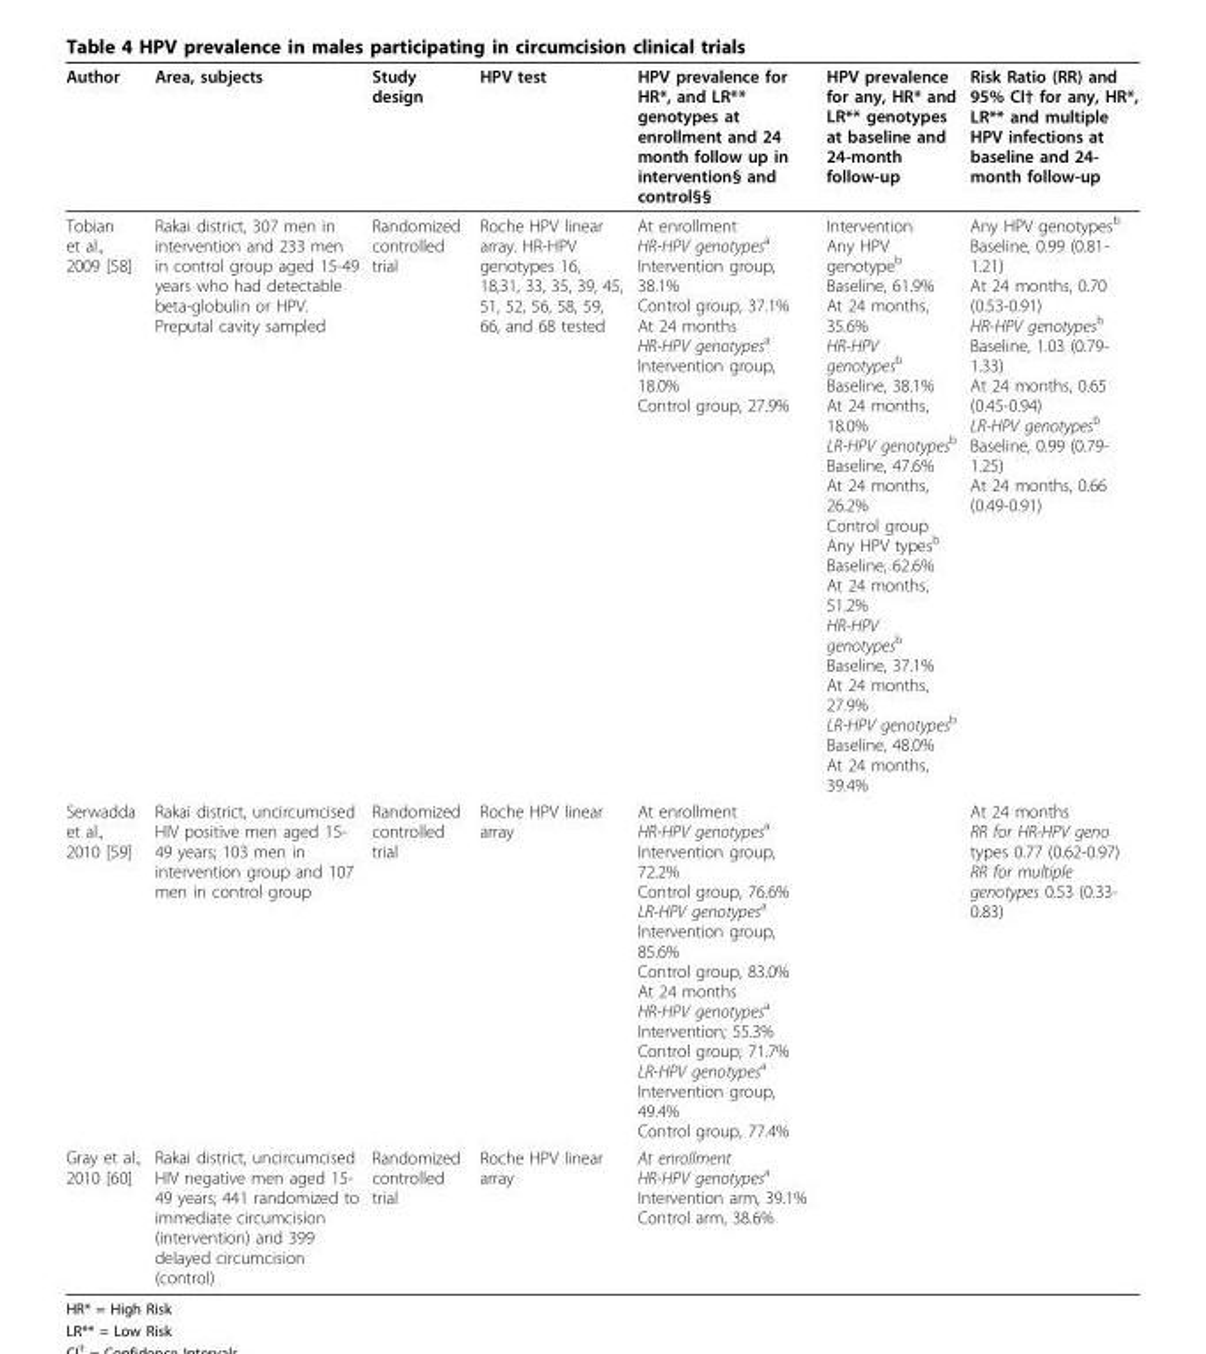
<table><thead><tr><td>Author</td><td>Area, subjects</td><td>Study design</td><td>HPV test</td><td>HPV prevalence for HR*, and LR** genotypes at enrollment and 24 month follow up in intervention§ and control§§</td><td>HPV prevalence for any, HR* and LR** genotypes at baseline and 24-month follow-up</td><td>Risk Ratio (RR) and 95% CI† for any, HR*, LR** and multiple HPV infections at baseline and 24- month follow-up</td></tr></thead><tbody><tr><td>Tobian et al., 2009 [58]</td><td>Rakai district, 307 men in intervention and 233 men in control group aged 15-49 years who had detectable beta-globulin or HPV. Preputal cavity sampled</td><td>Randomized controlled trial</td><td>Roche HPV linear array. HR-HPV genotypes 16, 18,31, 33, 35, 39, 45, 51, 52, 56, 58, 59, 66, and 68 tested</td><td>At enrollment HR-HPV genotypes<sup>a</sup> Intervention group, 38.1% Control group, 37.1% At 24 months HR-HPV genotypes<sup>a</sup> Intervention group, 18.0% Control group, 27.9%</td><td>Intervention Any HPV genotype<sup>b</sup> Baseline, 61.9% At 24 months, 35.6% HR-HPV genotypes<sup>b</sup> Baseline, 38.1% At 24 months, 18.0% LR-HPV genotypes<sup>b</sup> Baseline, 47.6% At 24 months, 26.2% Control group Any HPV types<sup>b</sup> Baseline, 62.6% At 24 months, 51.2% HR-HPV genotypes<sup>b</sup> Baseline, 37.1% At 24 months, 27.9% LR-HPV genotypes<sup>b</sup> Baseline, 48.0% At 24 months, 39.4%</td><td>Any HPV genotypes<sup>b</sup> Baseline, 0.99 (0.81- 1.21) At 24 months, 0.70 (0.53-0.91) HR-HPV genotypes<sup>b</sup> Baseline, 1.03 (0.79- 1.33) At 24 months, 0.65 (0.45-0.94) LR-HPV genotypes<sup>b</sup> Baseline, 0.99 (0.79- 1.25) At 24 months, 0.66 (0.49-0.91)</td></tr><tr><td>Serwadda et al., 2010 [59]</td><td>Rakai district, uncircumcised HIV positive men aged 15- 49 years; 103 men in intervention group and 107 men in control group</td><td>Randomized controlled trial</td><td>Roche HPV linear array</td><td>At enrollment HR-HPV genotypes<sup>a</sup> Intervention group, 72.2% Control group, 76.6% LR-HPV genotypes<sup>a</sup> Intervention group, 85.6% Control group, 83.0% At 24 months HR-HPV genotypes<sup>a</sup> Intervention; 55.3% Control group; 71.7% LR-HPV genotypes<sup>a</sup> Intervention group, 49.4% Control group, 77.4%</td><td></td><td>At 24 months RR for HR-HPV geno types 0.77 (0.62-0.97) RR for multiple genotypes 0.53 (0.33- 0.83)</td></tr><tr><td>Gray et al., 2010 [60]</td><td>Rakai district, uncircumcised HIV negative men aged 15- 49 years; 441 randomized to immediate circumcision (intervention) and 399 delayed circumcision (control)</td><td>Randomized controlled trial</td><td>Roche HPV linear array</td><td>At enrollment HR-HPV genotypes<sup>a</sup> Intervention arm, 39.1% Control arm, 38.6%</td><td></td><td></td></tr></tbody></table>